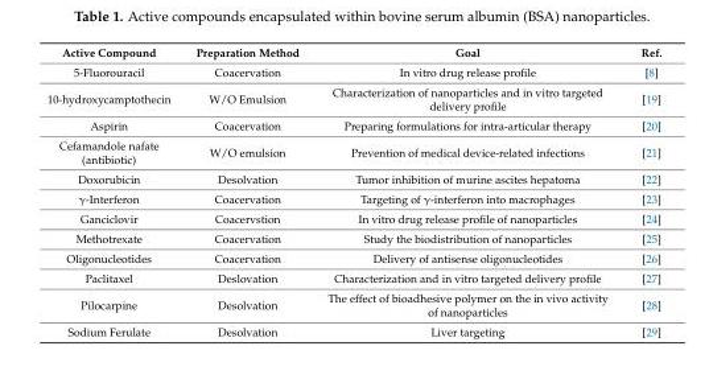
<table><thead><tr><td>Active Compound</td><td>Preparation Method</td><td>Goal</td><td>Ref.</td></tr></thead><tbody><tr><td>5-Fluorouracil</td><td>Coacervation</td><td>In vitro drug release profile</td><td>[8]</td></tr><tr><td>10-hydroxycamptothecin</td><td>W/O Emulsion</td><td>Characterization of nanoparticles and in vitro targeted delivery profile</td><td>[19]</td></tr><tr><td>Aspirin</td><td>Coacervation</td><td>Preparing formulations for intra-articular therapy</td><td>[20]</td></tr><tr><td>Cefamandole nafate (antibiotic)</td><td>W/O emulsion</td><td>Prevention of medical device-related infections</td><td>[21]</td></tr><tr><td>Doxorubicin</td><td>Desolvation</td><td>Tumor inhibition of murine ascites hepatoma</td><td>[22]</td></tr><tr><td>γ-Interferon</td><td>Coacervation</td><td>Targeting of γ-interferon into macrophages</td><td>[23]</td></tr><tr><td>Ganciclovir</td><td>Coacervstion</td><td>In vitro drug release profile of nanoparticles</td><td>[24]</td></tr><tr><td>Methotrexate</td><td>Coacervation</td><td>Study the biodistribution of nanoparticles</td><td>[25]</td></tr><tr><td>Oligonucleotides</td><td>Coacervation</td><td>Delivery of antisense oligonucleotides</td><td>[26]</td></tr><tr><td>Paclitaxel</td><td>Deslovation</td><td>Characterization and in vitro targeted delivery profile</td><td>[27]</td></tr><tr><td>Pilocarpine</td><td>Desolvation</td><td>The effect of bioadhesive polymer on the in vivo activity of nanoparticles</td><td>[28]</td></tr><tr><td>Sodium Ferulate</td><td>Desolvation</td><td>Liver targeting</td><td>[29]</td></tr></tbody></table>